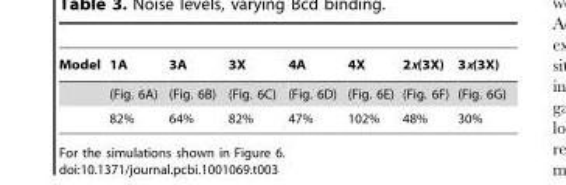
<table><thead><tr><td>Model</td><td>1A</td><td>3A</td><td>3X</td><td>4A</td><td>4X</td><td>2x(3X)</td><td>3x(3X)</td></tr></thead><tbody><tr><td></td><td>(Fig. 6A)</td><td>(Fig. 6B)</td><td>(Fig. 6C)</td><td>(Fig. 6D)</td><td>(Fig. 6E)</td><td>(Fig. 6F)</td><td>(Fig. 6G)</td></tr><tr><td></td><td>82%</td><td>64%</td><td>82%</td><td>47%</td><td>102%</td><td>48%</td><td>30%</td></tr></tbody></table>